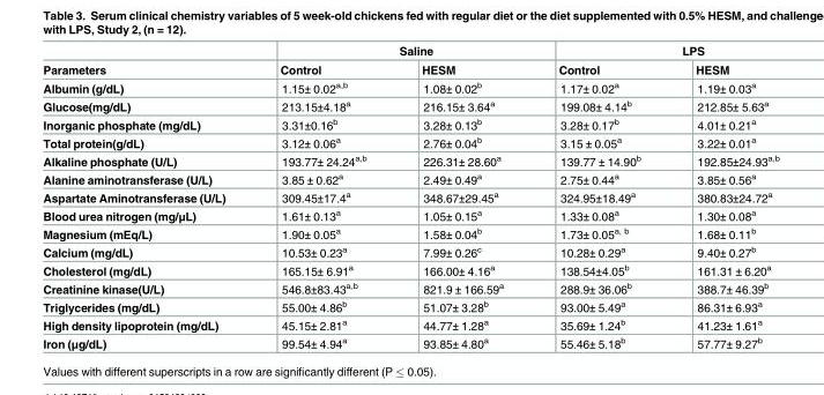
<table><thead><tr><td rowspan="2">Parameters</td><td colspan="2">Saline</td><td colspan="2">LPS</td></tr><tr><td>Control</td><td>HESM</td><td>Control</td><td>HESM</td></tr></thead><tbody><tr><td>Albumin (g/dL)</td><td>1.15± 0.02<sup>a,b</sup></td><td>1.08± 0.02<sup>b</sup></td><td>1.17± 0.02<sup>a</sup></td><td>1.19± 0.03<sup>a</sup></td></tr><tr><td>Glucose(mg/dL)</td><td>213.15±4.18<sup>a</sup></td><td>216.15± 3.64<sup>a</sup></td><td>199.08± 4.14<sup>b</sup></td><td>212.85± 5.63<sup>a</sup></td></tr><tr><td>Inorganic phosphate (mg/dL)</td><td>3.31±0.16<sup>b</sup></td><td>3.28± 0.13<sup>b</sup></td><td>3.28± 0.17<sup>b</sup></td><td>4.01± 0.21<sup>a</sup></td></tr><tr><td>Total protein(g/dL)</td><td>3.12± 0.06<sup>a</sup></td><td>2.76± 0.04<sup>b</sup></td><td>3.15 ± 0.05<sup>a</sup></td><td>3.22± 0.01<sup>a</sup></td></tr><tr><td>Alkaline phosphate (U/L)</td><td>193.77± 24.24<sup>a,b</sup></td><td>226.31± 28.60<sup>a</sup></td><td>139.77 ± 14.90<sup>b</sup></td><td>192.85±24.93<sup>a,b</sup></td></tr><tr><td>Alanine aminotransferase (U/L)</td><td>3.85 ± 0.62<sup>a</sup></td><td>2.49± 0.49<sup>a</sup></td><td>2.75± 0.44<sup>a</sup></td><td>3.85± 0.56<sup>a</sup></td></tr><tr><td>Aspartate Aminotransferase (U/L)</td><td>309.45±17.4<sup>a</sup></td><td>348.67±29.45<sup>a</sup></td><td>324.95±18.49<sup>a</sup></td><td>380.83±24.72<sup>a</sup></td></tr><tr><td>Blood urea nitrogen (mg/μL)</td><td>1.61± 0.13<sup>a</sup></td><td>1.05± 0.15<sup>a</sup></td><td>1.33± 0.08<sup>a</sup></td><td>1.30± 0.08<sup>a</sup></td></tr><tr><td>Magnesium (mEq/L)</td><td>1.90± 0.05<sup>a</sup></td><td>1.58± 0.04<sup>b</sup></td><td>1.73± 0.05<sup>a, b</sup></td><td>1.68± 0.11<sup>b</sup></td></tr><tr><td>Calcium (mg/dL)</td><td>10.53± 0.23<sup>a</sup></td><td>7.99± 0.26<sup>c</sup></td><td>10.28± 0.29<sup>a</sup></td><td>9.40± 0.27<sup>b</sup></td></tr><tr><td>Cholesterol (mg/dL)</td><td>165.15± 6.91<sup>a</sup></td><td>166.00± 4.16<sup>a</sup></td><td>138.54±4.05<sup>b</sup></td><td>161.31 ± 6.20<sup>a</sup></td></tr><tr><td>Creatinine kinase(U/L)</td><td>546.8±83.43<sup>a,b</sup></td><td>821.9 ± 166.59<sup>a</sup></td><td>288.9± 36.06<sup>b</sup></td><td>388.7± 46.39<sup>b</sup></td></tr><tr><td>Triglycerides (mg/dL)</td><td>55.00± 4.86<sup>b</sup></td><td>51.07± 3.28<sup>b</sup></td><td>93.00± 5.49<sup>a</sup></td><td>86.31± 6.93<sup>a</sup></td></tr><tr><td>High density lipoprotein (mg/dL)</td><td>45.15± 2.81<sup>a</sup></td><td>44.77± 1.28<sup>a</sup></td><td>35.69± 1.24<sup>b</sup></td><td>41.23± 1.61<sup>a</sup></td></tr><tr><td>Iron (μg/dL)</td><td>99.54± 4.94<sup>a</sup></td><td>93.85± 4.80<sup>a</sup></td><td>55.46± 5.18<sup>b</sup></td><td>57.77± 9.27<sup>b</sup></td></tr></tbody></table>